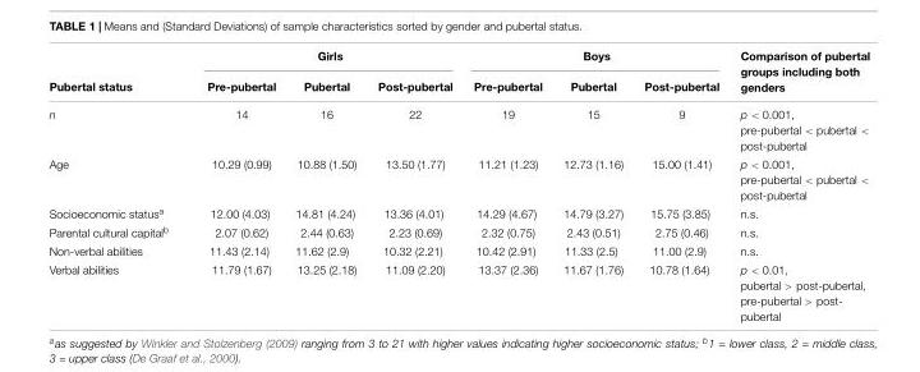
<table><thead><tr><td rowspan="2">Pubertal status</td><td colspan="3">Girls</td><td colspan="3">Boys</td><td rowspan="2">Comparison of pubertal groups including both genders</td></tr><tr><td>Pre-pubertal</td><td>Pubertal</td><td>Post-pubertal</td><td>Pre-pubertal</td><td>Pubertal</td><td>Post-pubertal</td></tr></thead><tbody><tr><td>n</td><td>14</td><td>16</td><td>22</td><td>19</td><td>15</td><td>9</td><td>p &lt; 0.001, pre-pubertal &lt; pubertal &lt; post-pubertal</td></tr><tr><td>Age</td><td>10.29 (0.99)</td><td>10.88 (1.50)</td><td>13.50 (1.77)</td><td>11.21 (1.23)</td><td>12.73 (1.16)</td><td>15.00 (1.41)</td><td>p &lt; 0.001, pre-pubertal &lt; pubertal &lt; post-pubertal</td></tr><tr><td>Socioeconomic status<sup>a</sup></td><td>12.00 (4.03)</td><td>14.81 (4.24)</td><td>13.36 (4.01)</td><td>14.29 (4.67)</td><td>14.79 (3.27)</td><td>15.75 (3.85)</td><td>n.s.</td></tr><tr><td>Parental cultural capital<sup>b</sup></td><td>2.07 (0.62)</td><td>2.44 (0.63)</td><td>2.23 (0.69)</td><td>2.32 (0.75)</td><td>2.43 (0.51)</td><td>2.75 (0.46)</td><td>n.s.</td></tr><tr><td>Non-verbal abilities</td><td>11.43 (2.14)</td><td>11.62 (2.9)</td><td>10.32 (2.21)</td><td>10.42 (2.91)</td><td>11.33 (2.5)</td><td>11.00 (2.9)</td><td>n.s.</td></tr><tr><td>Verbal abilities</td><td>11.79 (1.67)</td><td>13.25 (2.18)</td><td>11.09 (2.20)</td><td>13.37 (2.36)</td><td>11.67 (1.76)</td><td>10.78 (1.64)</td><td>p &lt; 0.01, pubertal &gt; post-pubertal, pre-pubertal &gt; post- pubertal</td></tr></tbody></table>